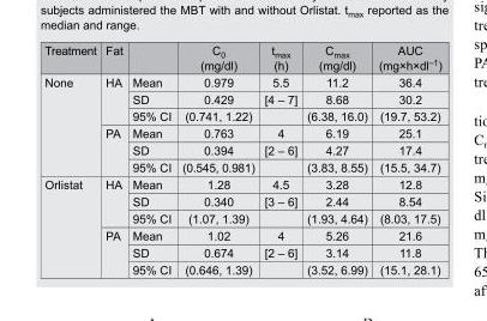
<table><thead><tr><td>Treatment</td><td>Fat</td><td></td><td>C<sub>0</sub> (mg/dl)</td><td>t<sub>max</sub> (h)</td><td>C<sub>max</sub> (mg/dl)</td><td>AUC (mg×h×dl<sup>–1</sup>)</td></tr></thead><tbody><tr><td rowspan="6">None</td><td rowspan="3">HA</td><td>Mean</td><td>0.979</td><td>5.5</td><td>11.2</td><td>36.4</td></tr><tr><td>SD</td><td>0.429</td><td>[4 – 7]</td><td>8.68</td><td>30.2</td></tr><tr><td>95% CI</td><td>(0.741, 1.22)</td><td></td><td>(6.38, 16.0)</td><td>(19.7, 53.2)</td></tr><tr><td rowspan="3">PA</td><td>Mean</td><td>0.763</td><td>4</td><td>6.19</td><td>25.1</td></tr><tr><td>SD</td><td>0.394</td><td>[2 – 6]</td><td>4.27</td><td>17.4</td></tr><tr><td>95% CI</td><td>(0.545, 0.981)</td><td></td><td>(3.83, 8.55)</td><td>(15.5, 34.7)</td></tr><tr><td rowspan="6">Orlistat</td><td rowspan="3">HA</td><td>Mean</td><td>1.28</td><td>4.5</td><td>3.28</td><td>12.8</td></tr><tr><td>SD</td><td>0.340</td><td>[3 – 6]</td><td>2.44</td><td>8.54</td></tr><tr><td>95% CI</td><td>(1.07, 1.39)</td><td></td><td>(1.93, 4.64)</td><td>(8.03, 17.5)</td></tr><tr><td rowspan="3">PA</td><td>Mean</td><td>1.02</td><td>4</td><td>5.26</td><td>21.6</td></tr><tr><td>SD</td><td>0.674</td><td>[2 – 6]</td><td>3.14</td><td>11.8</td></tr><tr><td>95% CI</td><td>(0.646, 1.39)</td><td></td><td>(3.52, 6.99)</td><td>(15.1, 28.1)</td></tr></tbody></table>